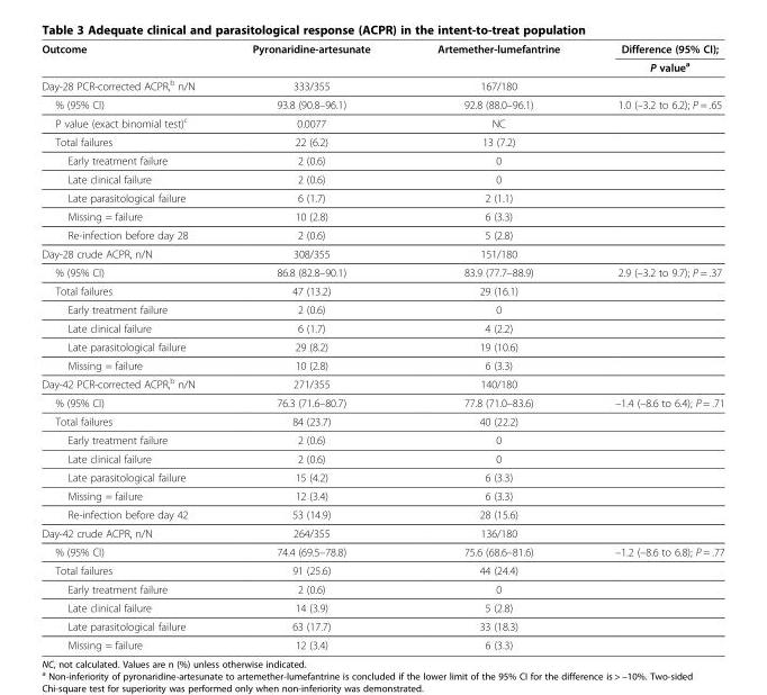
<table><thead><tr><td rowspan="2">Outcome</td><td rowspan="2">Pyronaridine-artesunate</td><td rowspan="2">Artemether-lumefantrine</td><td rowspan="2">Difference (95% CI); P value<sup>a</sup></td></tr><tr></tr></thead><tbody><tr><td>Day-28 PCR-corrected ACPR,<sup>b</sup> n/N</td><td>333/355</td><td>167/180</td><td></td></tr><tr><td>% (95% CI)</td><td>93.8 (90.8–96.1)</td><td>92.8 (88.0–96.1)</td><td>1.0 (–3.2 to 6.2); P = .65</td></tr><tr><td>P value (exact binomial test)<sup>c</sup></td><td>0.0077</td><td>NC</td><td></td></tr><tr><td>Total failures</td><td>22 (6.2)</td><td>13 (7.2)</td><td></td></tr><tr><td>Early treatment failure</td><td>2 (0.6)</td><td>0</td><td></td></tr><tr><td>Late clinical failure</td><td>2 (0.6)</td><td>0</td><td></td></tr><tr><td>Late parasitological failure</td><td>6 (1.7)</td><td>2 (1.1)</td><td></td></tr><tr><td>Missing = failure</td><td>10 (2.8)</td><td>6 (3.3)</td><td></td></tr><tr><td>Re-infection before day 28</td><td>2 (0.6)</td><td>5 (2.8)</td><td></td></tr><tr><td>Day-28 crude ACPR, n/N</td><td>308/355</td><td>151/180</td><td></td></tr><tr><td>% (95% CI)</td><td>86.8 (82.8–90.1)</td><td>83.9 (77.7–88.9)</td><td>2.9 (–3.2 to 9.7); P = .37</td></tr><tr><td>Total failures</td><td>47 (13.2)</td><td>29 (16.1)</td><td></td></tr><tr><td>Early treatment failure</td><td>2 (0.6)</td><td>0</td><td></td></tr><tr><td>Late clinical failure</td><td>6 (1.7)</td><td>4 (2.2)</td><td></td></tr><tr><td>Late parasitological failure</td><td>29 (8.2)</td><td>19 (10.6)</td><td></td></tr><tr><td>Missing = failure</td><td>10 (2.8)</td><td>6 (3.3)</td><td></td></tr><tr><td>Day-42 PCR-corrected ACPR,<sup>b</sup> n/N</td><td>271/355</td><td>140/180</td><td></td></tr><tr><td>% (95% CI)</td><td>76.3 (71.6–80.7)</td><td>77.8 (71.0–83.6)</td><td>–1.4 (–8.6 to 6.4); P = .71</td></tr><tr><td>Total failures</td><td>84 (23.7)</td><td>40 (22.2)</td><td></td></tr><tr><td>Early treatment failure</td><td>2 (0.6)</td><td>0</td><td></td></tr><tr><td>Late clinical failure</td><td>2 (0.6)</td><td>0</td><td></td></tr><tr><td>Late parasitological failure</td><td>15 (4.2)</td><td>6 (3.3)</td><td></td></tr><tr><td>Missing = failure</td><td>12 (3.4)</td><td>6 (3.3)</td><td></td></tr><tr><td>Re-infection before day 42</td><td>53 (14.9)</td><td>28 (15.6)</td><td></td></tr><tr><td>Day-42 crude ACPR, n/N</td><td>264/355</td><td>136/180</td><td></td></tr><tr><td>% (95% CI)</td><td>74.4 (69.5–78.8)</td><td>75.6 (68.6–81.6)</td><td>–1.2 (–8.6 to 6.8); P = .77</td></tr><tr><td>Total failures</td><td>91 (25.6)</td><td>44 (24.4)</td><td></td></tr><tr><td>Early treatment failure</td><td>2 (0.6)</td><td>0</td><td></td></tr><tr><td>Late clinical failure</td><td>14 (3.9)</td><td>5 (2.8)</td><td></td></tr><tr><td>Late parasitological failure</td><td>63 (17.7)</td><td>33 (18.3)</td><td></td></tr><tr><td>Missing = failure</td><td>12 (3.4)</td><td>6 (3.3)</td><td></td></tr></tbody></table>